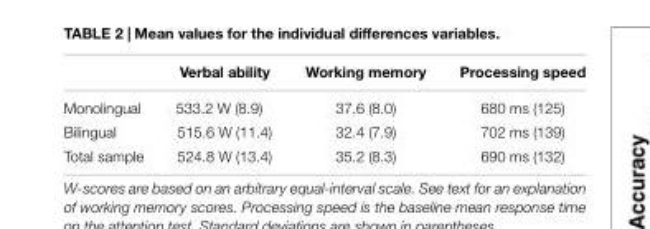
<table><thead><tr><td></td><td>Verbal ability</td><td>Working memory</td><td>Processing speed</td></tr></thead><tbody><tr><td>Monolingual</td><td>533.2 W (8.9)</td><td>37.6 (8.0)</td><td>680 ms (125)</td></tr><tr><td>Bilingual</td><td>515.6 W (11.4)</td><td>32.4 (7.9)</td><td>702 ms (139)</td></tr><tr><td>Total sample</td><td>524.8 W (13.4)</td><td>35.2 (8.3)</td><td>690 ms (132)</td></tr></tbody></table>